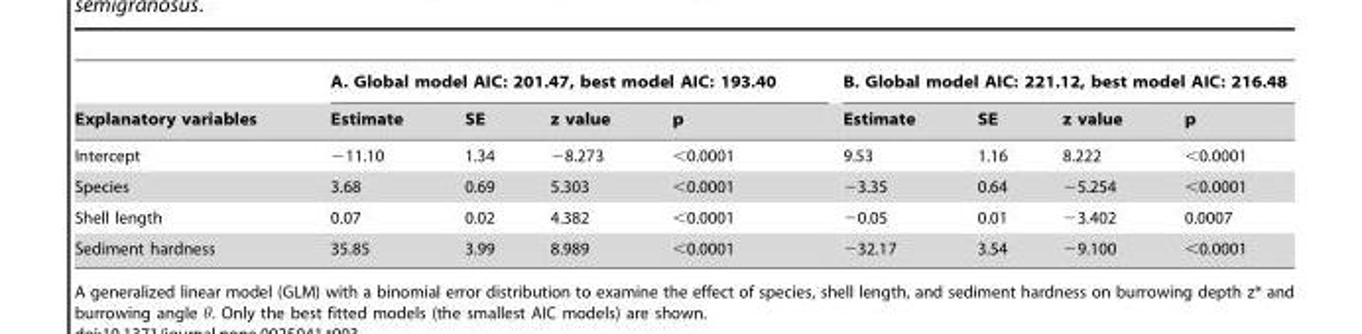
<table><thead><tr><td rowspan="2">Explanatory variables</td><td colspan="4">A. Global model AIC: 201.47, best model AIC: 193.40</td><td colspan="4">B. Global model AIC: 221.12, best model AIC: 216.48</td></tr><tr><td>Estimate</td><td>SE</td><td>z value</td><td>p</td><td>Estimate</td><td>SE</td><td>z value</td><td>p</td></tr></thead><tbody><tr><td>Intercept</td><td>−11.10</td><td>1.34</td><td>−8.273</td><td>&lt;0.0001</td><td>9.53</td><td>1.16</td><td>8.222</td><td>&lt;0.0001</td></tr><tr><td>Species</td><td>3.68</td><td>0.69</td><td>5.303</td><td>&lt;0.0001</td><td>−3.35</td><td>0.64</td><td>−5.254</td><td>&lt;0.0001</td></tr><tr><td>Shell length</td><td>0.07</td><td>0.02</td><td>4.382</td><td>&lt;0.0001</td><td>−0.05</td><td>0.01</td><td>−3.402</td><td>0.0007</td></tr><tr><td>Sediment hardness</td><td>35.85</td><td>3.99</td><td>8.989</td><td>&lt;0.0001</td><td>−32.17</td><td>3.54</td><td>−9.100</td><td>&lt;0.0001</td></tr></tbody></table>